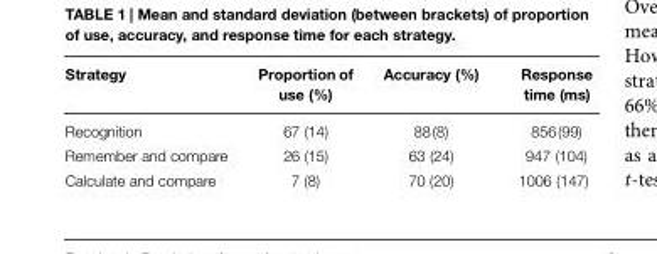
<table><thead><tr><td>Strategy</td><td>Proportion of use (%)</td><td>Accuracy (%)</td><td>Response time (ms)</td></tr></thead><tbody><tr><td>Recognition</td><td>67 (14)</td><td>88(8)</td><td>856(99)</td></tr><tr><td>Remember and compare</td><td>26 (15)</td><td>63 (24)</td><td>947 (104)</td></tr><tr><td>Calculate and compare</td><td>7 (8)</td><td>70 (20)</td><td>1006 (147)</td></tr></tbody></table>